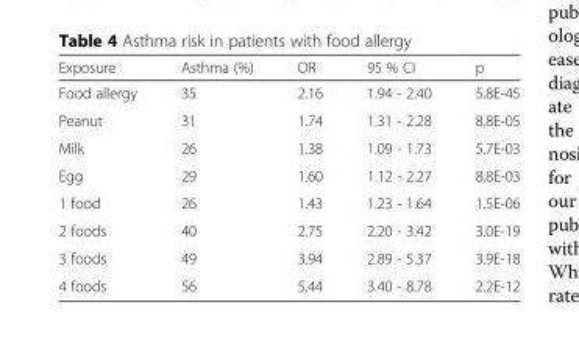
<table><thead><tr><td>Exposure</td><td>Asthma (%)</td><td>OR</td><td>95 % CI</td><td>p</td></tr></thead><tbody><tr><td>Food allergy</td><td>35</td><td>2.16</td><td>1.94 - 2.40</td><td>5.8E-45</td></tr><tr><td>Peanut</td><td>31</td><td>1.74</td><td>1.31 - 2.28</td><td>8.8E-05</td></tr><tr><td>Milk</td><td>26</td><td>1.38</td><td>1.09 - 1.73</td><td>5.7E-03</td></tr><tr><td>Egg</td><td>29</td><td>1.60</td><td>1.12 - 2.27</td><td>8.8E-03</td></tr><tr><td>1 food</td><td>26</td><td>1.43</td><td>1.23 - 1.64</td><td>1.5E-06</td></tr><tr><td>2 foods</td><td>40</td><td>2.75</td><td>2.20 - 3.42</td><td>3.0E-19</td></tr><tr><td>3 foods</td><td>49</td><td>3.94</td><td>2.89 - 5.37</td><td>3.9E-18</td></tr><tr><td>4 foods</td><td>56</td><td>5.44</td><td>3.40 - 8.78</td><td>2.2E-12</td></tr></tbody></table>